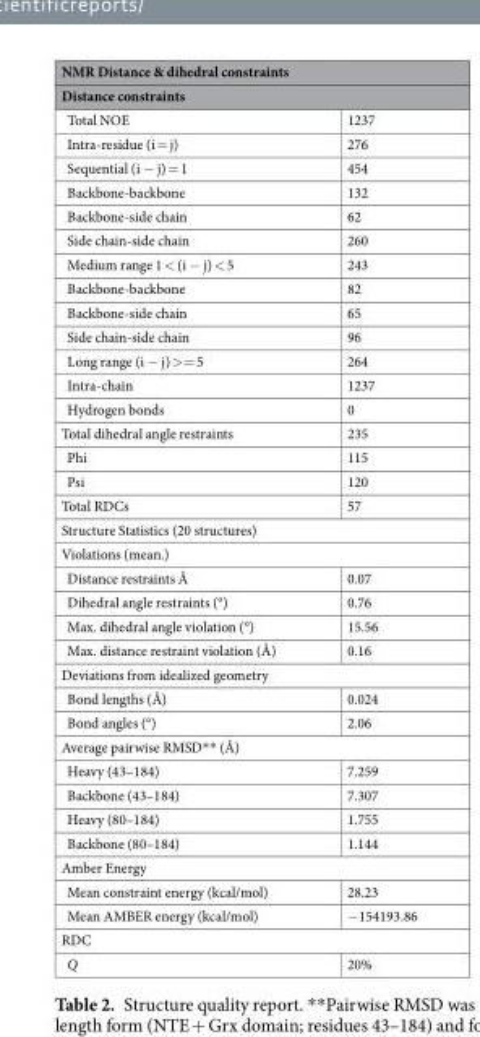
<table><thead><tr><td rowspan="2" colspan="2">NMR Distance &amp; dihedral constraints Distance constraints</td></tr><tr></tr><tr><td>Total NOE</td><td>1237</td></tr></thead><tbody><tr><td>Intra-residue (i = j)</td><td>276</td></tr><tr><td>Sequential (i − j) = 1</td><td>454</td></tr><tr><td>Backbone-backbone</td><td>132</td></tr><tr><td>Backbone-side chain</td><td>62</td></tr><tr><td>Side chain-side chain</td><td>260</td></tr><tr><td>Medium range 1 &lt; (i − j) &lt; 5</td><td>243</td></tr><tr><td>Backbone-backbone</td><td>82</td></tr><tr><td>Backbone-side chain</td><td>65</td></tr><tr><td>Side chain-side chain</td><td>96</td></tr><tr><td>Long range (i − j) &gt;= 5</td><td>264</td></tr><tr><td>Intra-chain</td><td>1237</td></tr><tr><td>Hydrogen bonds</td><td>0</td></tr><tr><td>Total dihedral angle restraints</td><td>235</td></tr><tr><td>Phi</td><td>115</td></tr><tr><td>Psi</td><td>120</td></tr><tr><td>Total RDCs</td><td>57</td></tr><tr><td colspan="2">Structure Statistics (20 structures)</td></tr><tr><td colspan="2">Violations (mean.)</td></tr><tr><td>Distance restraints Å</td><td>0.07</td></tr><tr><td>Dihedral angle restraints (°)</td><td>0.76</td></tr><tr><td>Max. dihedral angle violation (°)</td><td>15.56</td></tr><tr><td>Max. distance restraint violation (Å)</td><td>0.16</td></tr><tr><td colspan="2">Deviations from idealized geometry</td></tr><tr><td>Bond lengths (Å)</td><td>0.024</td></tr><tr><td>Bond angles (°)</td><td>2.06</td></tr><tr><td colspan="2">Average pairwise RMSD** (Å)</td></tr><tr><td>Heavy (43–184)</td><td>7.259</td></tr><tr><td>Backbone (43–184)</td><td>7.307</td></tr><tr><td>Heavy (80–184)</td><td>1.755</td></tr><tr><td>Backbone (80–184)</td><td>1.144</td></tr><tr><td colspan="2">Amber Energy</td></tr><tr><td>Mean constraint energy (kcal/mol)</td><td>28.23</td></tr><tr><td>Mean AMBER energy (kcal/mol)</td><td>−154193.86</td></tr><tr><td colspan="2">RDC</td></tr><tr><td>Q</td><td>20%</td></tr></tbody></table>